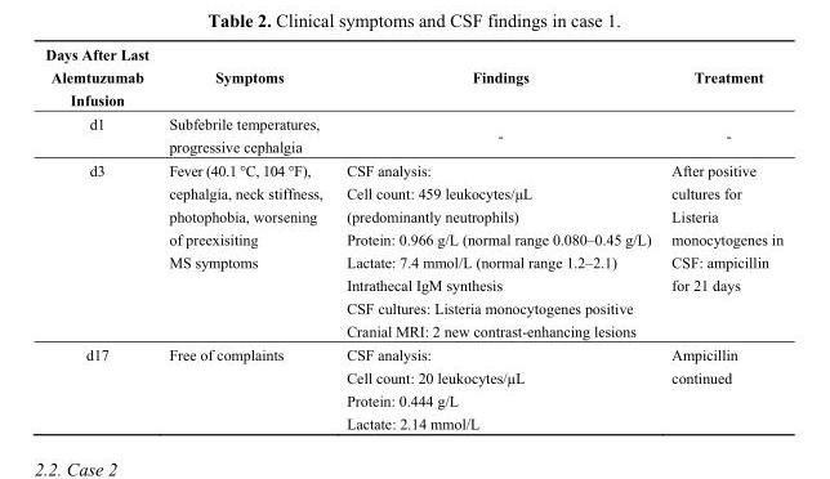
<table><thead><tr><td>Days After Last Alemtuzumab Infusion</td><td>Symptoms</td><td>Findings</td><td>Treatment</td></tr></thead><tbody><tr><td>d1</td><td>Subfebrile temperatures, progressive cephalgia</td><td>-</td><td>-</td></tr><tr><td>d3</td><td>Fever (40.1 °C, 104 °F), cephalgia, neck stiffness, photophobia, worsening of preexisiting MS symptoms</td><td>CSF analysis: Cell count: 459 leukocytes/µL (predominantly neutrophils) Protein: 0.966 g/L (normal range 0.080–0.45 g/L) Lactate: 7.4 mmol/L (normal range 1.2–2.1) Intrathecal IgM synthesis CSF cultures: Listeria monocytogenes positive Cranial MRI: 2 new contrast-enhancing lesions</td><td>After positive cultures for Listeria monocytogenes in CSF: ampicillin for 21 days</td></tr><tr><td>d17</td><td>Free of complaints</td><td>CSF analysis: Cell count: 20 leukocytes/µL Protein: 0.444 g/L Lactate: 2.14 mmol/L</td><td>Ampicillin continued</td></tr></tbody></table>